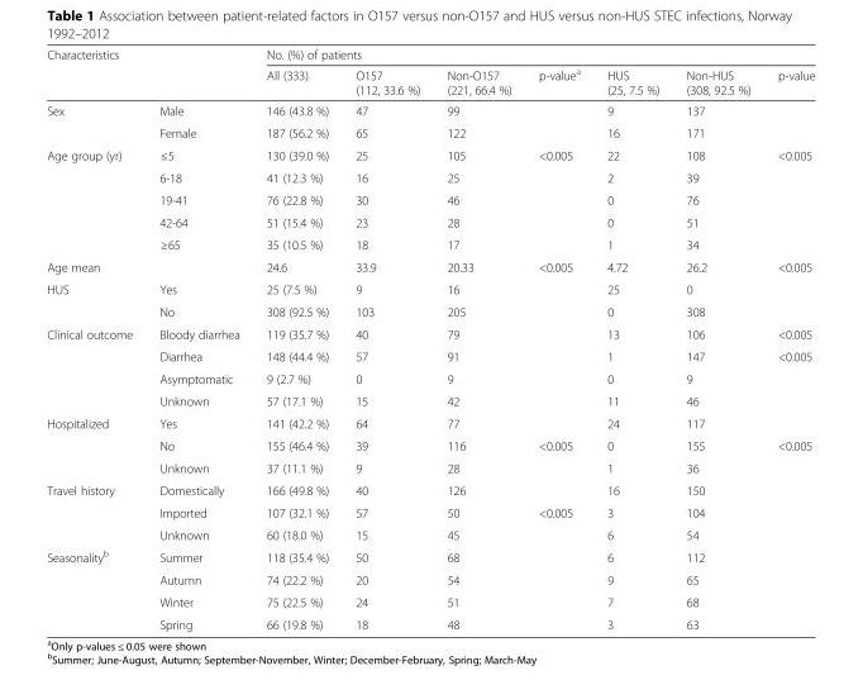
<table><thead><tr><td colspan="2">Characteristics</td><td colspan="7">No. (%) of patients</td></tr><tr><td></td><td></td><td>All (333)</td><td>O157 (112, 33.6 %)</td><td>Non-O157 (221, 66.4 %)</td><td>p-value<sup>a</sup></td><td>HUS (25, 7.5 %)</td><td>Non-HUS (308, 92.5 %)</td><td>p-value</td></tr></thead><tbody><tr><td rowspan="2">Sex</td><td>Male</td><td>146 (43.8 %)</td><td>47</td><td>99</td><td></td><td>9</td><td>137</td><td></td></tr><tr><td>Female</td><td>187 (56.2 %)</td><td>65</td><td>122</td><td></td><td>16</td><td>171</td><td></td></tr><tr><td rowspan="5">Age group (yr)</td><td>≤5</td><td>130 (39.0 %)</td><td>25</td><td>105</td><td>&lt;0.005</td><td>22</td><td>108</td><td>&lt;0.005</td></tr><tr><td>6-18</td><td>41 (12.3 %)</td><td>16</td><td>25</td><td></td><td>2</td><td>39</td><td></td></tr><tr><td>19-41</td><td>76 (22.8 %)</td><td>30</td><td>46</td><td></td><td>0</td><td>76</td><td></td></tr><tr><td>42-64</td><td>51 (15.4 %)</td><td>23</td><td>28</td><td></td><td>0</td><td>51</td><td></td></tr><tr><td>≥65</td><td>35 (10.5 %)</td><td>18</td><td>17</td><td></td><td>1</td><td>34</td><td></td></tr><tr><td>Age mean</td><td></td><td>24.6</td><td>33.9</td><td>20.33</td><td>&lt;0.005</td><td>4.72</td><td>26.2</td><td>&lt;0.005</td></tr><tr><td rowspan="2">HUS</td><td>Yes</td><td>25 (7.5 %)</td><td>9</td><td>16</td><td></td><td>25</td><td>0</td><td></td></tr><tr><td>No</td><td>308 (92.5 %)</td><td>103</td><td>205</td><td></td><td>0</td><td>308</td><td></td></tr><tr><td rowspan="4">Clinical outcome</td><td>Bloody diarrhea</td><td>119 (35.7 %)</td><td>40</td><td>79</td><td></td><td>13</td><td>106</td><td>&lt;0.005</td></tr><tr><td>Diarrhea</td><td>148 (44.4 %)</td><td>57</td><td>91</td><td></td><td>1</td><td>147</td><td>&lt;0.005</td></tr><tr><td>Asymptomatic</td><td>9 (2.7 %)</td><td>0</td><td>9</td><td></td><td>0</td><td>9</td><td></td></tr><tr><td>Unknown</td><td>57 (17.1 %)</td><td>15</td><td>42</td><td></td><td>11</td><td>46</td><td></td></tr><tr><td rowspan="3">Hospitalized</td><td>Yes</td><td>141 (42.2 %)</td><td>64</td><td>77</td><td></td><td>24</td><td>117</td><td></td></tr><tr><td>No</td><td>155 (46.4 %)</td><td>39</td><td>116</td><td>&lt;0.005</td><td>0</td><td>155</td><td>&lt;0.005</td></tr><tr><td>Unknown</td><td>37 (11.1 %)</td><td>9</td><td>28</td><td></td><td>1</td><td>36</td><td></td></tr><tr><td rowspan="3">Travel history</td><td>Domestically</td><td>166 (49.8 %)</td><td>40</td><td>126</td><td></td><td>16</td><td>150</td><td></td></tr><tr><td>Imported</td><td>107 (32.1 %)</td><td>57</td><td>50</td><td>&lt;0.005</td><td>3</td><td>104</td><td></td></tr><tr><td>Unknown</td><td>60 (18.0 %)</td><td>15</td><td>45</td><td></td><td>6</td><td>54</td><td></td></tr><tr><td rowspan="4">Seasonality<sup>b</sup></td><td>Summer</td><td>118 (35.4 %)</td><td>50</td><td>68</td><td></td><td>6</td><td>112</td><td></td></tr><tr><td>Autumn</td><td>74 (22.2 %)</td><td>20</td><td>54</td><td></td><td>9</td><td>65</td><td></td></tr><tr><td>Winter</td><td>75 (22.5 %)</td><td>24</td><td>51</td><td></td><td>7</td><td>68</td><td></td></tr><tr><td>Spring</td><td>66 (19.8 %)</td><td>18</td><td>48</td><td></td><td>3</td><td>63</td><td></td></tr></tbody></table>